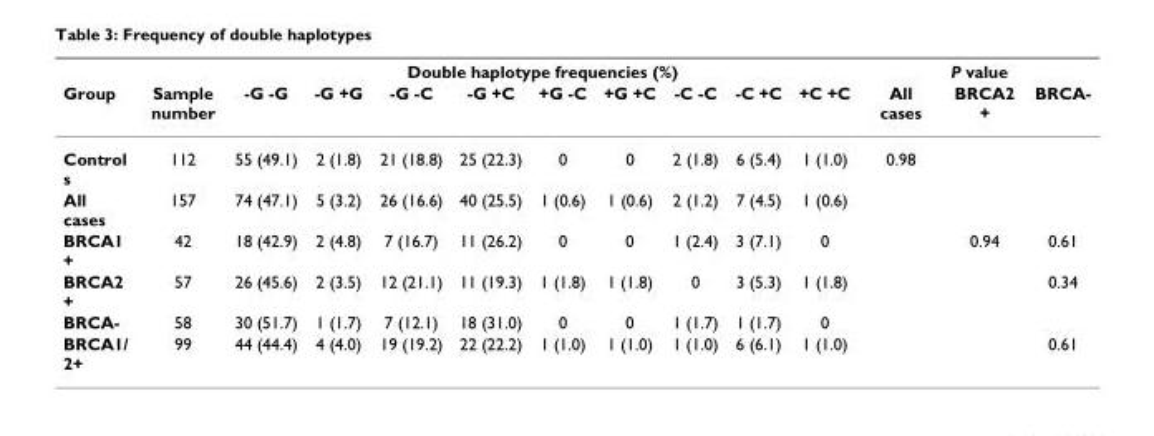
<table><thead><tr><td rowspan="2">Group</td><td rowspan="2">Sample number</td><td colspan="9">Double haplotype frequencies (%)</td><td colspan="3">P value</td></tr><tr><td>-G -G</td><td>-G +G</td><td>-G -C</td><td>-G +C</td><td>+G -C</td><td>+G +C</td><td>-C -C</td><td>-C +C</td><td>+C +C</td><td>All cases</td><td>BRCA2 +</td><td>BRCA-</td></tr></thead><tbody><tr><td>Control s</td><td>112</td><td>55 (49.1)</td><td>2 (1.8)</td><td>21 (18.8)</td><td>25 (22.3)</td><td>0</td><td>0</td><td>2 (1.8)</td><td>6 (5.4)</td><td>1 (1.0)</td><td>0.98</td><td></td><td></td></tr><tr><td>All cases</td><td>157</td><td>74 (47.1)</td><td>5 (3.2)</td><td>26 (16.6)</td><td>40 (25.5)</td><td>1 (0.6)</td><td>1 (0.6)</td><td>2 (1.2)</td><td>7 (4.5)</td><td>1 (0.6)</td><td></td><td></td><td></td></tr><tr><td>BRCA1 +</td><td>42</td><td>18 (42.9)</td><td>2 (4.8)</td><td>7 (16.7)</td><td>11 (26.2)</td><td>0</td><td>0</td><td>1 (2.4)</td><td>3 (7.1)</td><td>0</td><td></td><td>0.94</td><td>0.61</td></tr><tr><td>BRCA2 +</td><td>57</td><td>26 (45.6)</td><td>2 (3.5)</td><td>12 (21.1)</td><td>11 (19.3)</td><td>1 (1.8)</td><td>1 (1.8)</td><td>0</td><td>3 (5.3)</td><td>1 (1.8)</td><td></td><td></td><td>0.34</td></tr><tr><td>BRCA-</td><td>58</td><td>30 (51.7)</td><td>1 (1.7)</td><td>7 (12.1)</td><td>18 (31.0)</td><td>0</td><td>0</td><td>1 (1.7)</td><td>1 (1.7)</td><td>0</td><td></td><td></td><td></td></tr><tr><td>BRCA1/ 2+</td><td>99</td><td>44 (44.4)</td><td>4 (4.0)</td><td>19 (19.2)</td><td>22 (22.2)</td><td>1 (1.0)</td><td>1 (1.0)</td><td>1 (1.0)</td><td>6 (6.1)</td><td>1 (1.0)</td><td></td><td></td><td>0.61</td></tr></tbody></table>